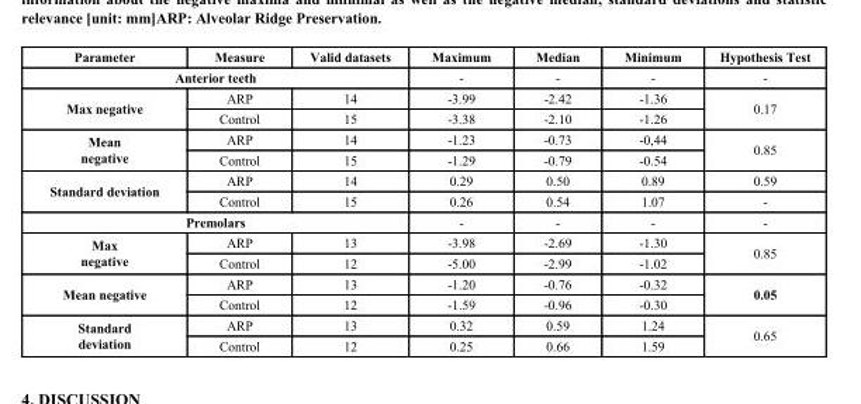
<table><thead><tr><td>Parameter</td><td>Measure</td><td>Valid datasets</td><td>Maximum</td><td>Median</td><td>Minimum</td><td>Hypothesis Test</td></tr></thead><tbody><tr><td colspan="3">Anterior teeth</td><td>-</td><td>-</td><td>-</td><td>-</td></tr><tr><td rowspan="2">Max negative</td><td>ARP</td><td>14</td><td>-3.99</td><td>-2.42</td><td>-1.36</td><td rowspan="2">0.17</td></tr><tr><td>Control</td><td>15</td><td>-3.38</td><td>-2.10</td><td>-1.26</td></tr><tr><td rowspan="2">Mean negative</td><td>ARP</td><td>14</td><td>-1.23</td><td>-0.73</td><td>-0,44</td><td rowspan="2">0.85</td></tr><tr><td>Control</td><td>15</td><td>-1.29</td><td>-0.79</td><td>-0.54</td></tr><tr><td rowspan="2">Standard deviation</td><td>ARP</td><td>14</td><td>0.29</td><td>0.50</td><td>0.89</td><td>0.59</td></tr><tr><td>Control</td><td>15</td><td>0.26</td><td>0.54</td><td>1.07</td><td>-</td></tr><tr><td colspan="3">Premolars</td><td>-</td><td>-</td><td>-</td><td>-</td></tr><tr><td rowspan="2">Max negative</td><td>ARP</td><td>13</td><td>-3.98</td><td>-2.69</td><td>-1.30</td><td rowspan="2">0.85</td></tr><tr><td>Control</td><td>12</td><td>-5.00</td><td>-2.99</td><td>-1.02</td></tr><tr><td rowspan="2">Mean negative</td><td>ARP</td><td>13</td><td>-1.20</td><td>-0.76</td><td>-0.32</td><td rowspan="2">0.05</td></tr><tr><td>Control</td><td>12</td><td>-1.59</td><td>-0.96</td><td>-0.30</td></tr><tr><td rowspan="2">Standard deviation</td><td>ARP</td><td>13</td><td>0.32</td><td>0.59</td><td>1.24</td><td rowspan="2">0.65</td></tr><tr><td>Control</td><td>12</td><td>0.25</td><td>0.66</td><td>1.59</td></tr></tbody></table>